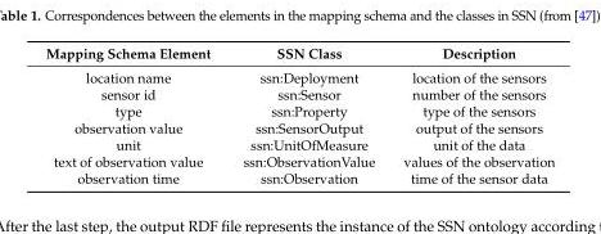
<table><thead><tr><td>Mapping Schema Element</td><td>SSN Class</td><td>Description</td></tr></thead><tbody><tr><td>location name</td><td>ssn:Deployment</td><td>location of the sensors</td></tr><tr><td>sensor id</td><td>ssn:Sensor</td><td>number of the sensors</td></tr><tr><td>type</td><td>ssn:Property</td><td>type of the sensors</td></tr><tr><td>observation value</td><td>ssn:SensorOutput</td><td>output of the sensors</td></tr><tr><td>unit</td><td>ssn:UnitOfMeasure</td><td>unit of the data</td></tr><tr><td>text of observation value</td><td>ssn:ObservationValue</td><td>values of the observation</td></tr><tr><td>observation time</td><td>ssn:Observation</td><td>time of the sensor data</td></tr></tbody></table>